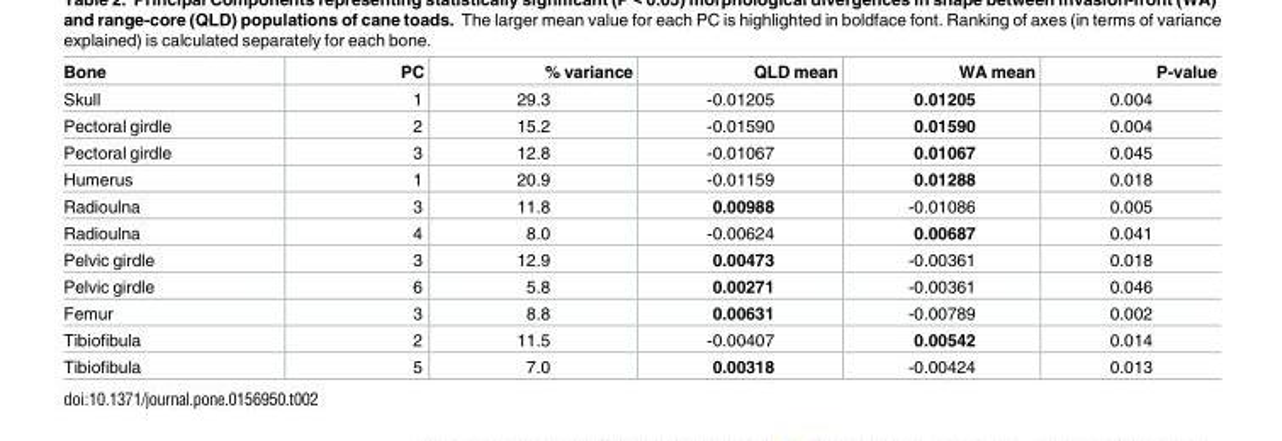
<table><thead><tr><td>Bone</td><td>PC</td><td>% variance</td><td>QLD mean</td><td>WA mean</td><td>P-value</td></tr></thead><tbody><tr><td>Skull</td><td>1</td><td>29.3</td><td>-0.01205</td><td>0.01205</td><td>0.004</td></tr><tr><td>Pectoral girdle</td><td>2</td><td>15.2</td><td>-0.01590</td><td>0.01590</td><td>0.004</td></tr><tr><td>Pectoral girdle</td><td>3</td><td>12.8</td><td>-0.01067</td><td>0.01067</td><td>0.045</td></tr><tr><td>Humerus</td><td>1</td><td>20.9</td><td>-0.01159</td><td>0.01288</td><td>0.018</td></tr><tr><td>Radioulna</td><td>3</td><td>11.8</td><td>0.00988</td><td>-0.01086</td><td>0.005</td></tr><tr><td>Radioulna</td><td>4</td><td>8.0</td><td>-0.00624</td><td>0.00687</td><td>0.041</td></tr><tr><td>Pelvic girdle</td><td>3</td><td>12.9</td><td>0.00473</td><td>-0.00361</td><td>0.018</td></tr><tr><td>Pelvic girdle</td><td>6</td><td>5.8</td><td>0.00271</td><td>-0.00361</td><td>0.046</td></tr><tr><td>Femur</td><td>3</td><td>8.8</td><td>0.00631</td><td>-0.00789</td><td>0.002</td></tr><tr><td>Tibiofibula</td><td>2</td><td>11.5</td><td>-0.00407</td><td>0.00542</td><td>0.014</td></tr><tr><td>Tibiofibula</td><td>5</td><td>7.0</td><td>0.00318</td><td>-0.00424</td><td>0.013</td></tr></tbody></table>